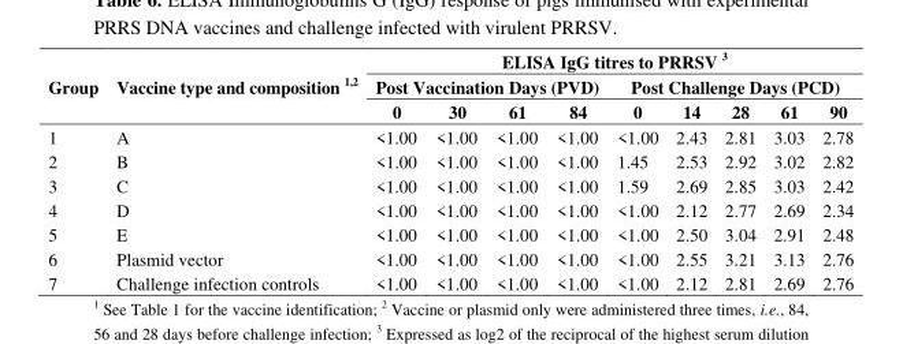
<table><thead><tr><td rowspan="3">Group</td><td rowspan="3">Vaccine type and composition <sup>1,2</sup></td><td colspan="9">ELISA IgG titres to PRRSV <sup>3</sup></td></tr><tr><td colspan="4">Post Vaccination Days (PVD)</td><td colspan="5">Post Challenge Days (PCD)</td></tr><tr><td>0</td><td>30</td><td>61</td><td>84</td><td>0</td><td>14</td><td>28</td><td>61</td><td>90</td></tr></thead><tbody><tr><td>1</td><td>A</td><td>&lt;1.00</td><td>&lt;1.00</td><td>&lt;1.00</td><td>&lt;1.00</td><td>&lt;1.00</td><td>2.43</td><td>2.81</td><td>3.03</td><td>2.78</td></tr><tr><td>2</td><td>B</td><td>&lt;1.00</td><td>&lt;1.00</td><td>&lt;1.00</td><td>&lt;1.00</td><td>1.45</td><td>2.53</td><td>2.92</td><td>3.02</td><td>2.82</td></tr><tr><td>3</td><td>C</td><td>&lt;1.00</td><td>&lt;1.00</td><td>&lt;1.00</td><td>&lt;1.00</td><td>1.59</td><td>2.69</td><td>2.85</td><td>3.03</td><td>2.42</td></tr><tr><td>4</td><td>D</td><td>&lt;1.00</td><td>&lt;1.00</td><td>&lt;1.00</td><td>&lt;1.00</td><td>&lt;1.00</td><td>2.12</td><td>2.77</td><td>2.69</td><td>2.34</td></tr><tr><td>5</td><td>E</td><td>&lt;1.00</td><td>&lt;1.00</td><td>&lt;1.00</td><td>&lt;1.00</td><td>&lt;1.00</td><td>2.50</td><td>3.04</td><td>2.91</td><td>2.48</td></tr><tr><td>6</td><td>Plasmid vector</td><td>&lt;1.00</td><td>&lt;1.00</td><td>&lt;1.00</td><td>&lt;1.00</td><td>&lt;1.00</td><td>2.55</td><td>3.21</td><td>3.13</td><td>2.76</td></tr><tr><td>7</td><td>Challenge infection controls</td><td>&lt;1.00</td><td>&lt;1.00</td><td>&lt;1.00</td><td>&lt;1.00</td><td>&lt;1.00</td><td>2.12</td><td>2.81</td><td>2.69</td><td>2.76</td></tr></tbody></table>